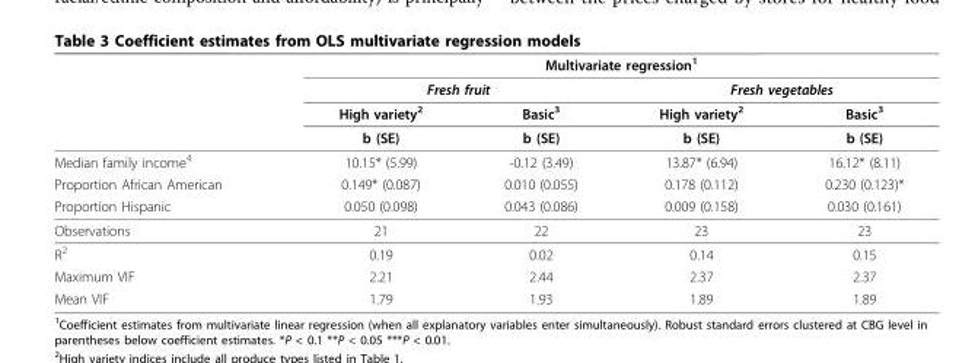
<table><thead><tr><td rowspan="4"></td><td colspan="4">Multivariate regression<sup>1</sup></td></tr><tr><td colspan="2">Fresh fruit</td><td colspan="2">Fresh vegetables</td></tr><tr><td rowspan="2">High variety<sup>2</sup> b (SE)</td><td rowspan="2">Basic<sup>3</sup> b (SE)</td><td rowspan="2">High variety<sup>2</sup> b (SE)</td><td rowspan="2">Basic<sup>3</sup> b (SE)</td></tr><tr></tr></thead><tbody><tr><td>Median family income<sup>4</sup></td><td>10.15* (5.99)</td><td>-0.12 (3.49)</td><td>13.87* (6.94)</td><td>16.12* (8.11)</td></tr><tr><td>Proportion African American</td><td>0.149* (0.087)</td><td>0.010 (0.055)</td><td>0.178 (0.112)</td><td>0.230 (0.123)*</td></tr><tr><td>Proportion Hispanic</td><td>0.050 (0.098)</td><td>0.043 (0.086)</td><td>0.009 (0.158)</td><td>0.030 (0.161)</td></tr><tr><td>Observations</td><td>21</td><td>22</td><td>23</td><td>23</td></tr><tr><td>R<sup>2</sup></td><td>0.19</td><td>0.02</td><td>0.14</td><td>0.15</td></tr><tr><td>Maximum VIF</td><td>2.21</td><td>2.44</td><td>2.37</td><td>2.37</td></tr><tr><td>Mean VIF</td><td>1.79</td><td>1.93</td><td>1.89</td><td>1.89</td></tr></tbody></table>